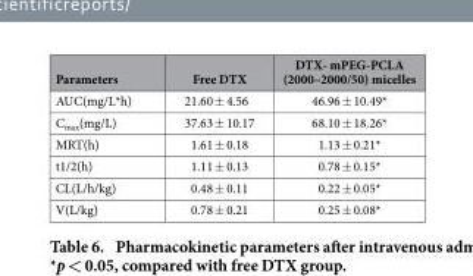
<table><thead><tr><td>Parameters</td><td>Free DTX</td><td>DTX- mPEG-PCLA (2000–2000/50) micelles</td></tr></thead><tbody><tr><td>AUC(mg/L*h)</td><td>21.60 ± 4.56</td><td>46.96 ± 10.49*</td></tr><tr><td>C<sub>max</sub>(mg/L)</td><td>37.63 ± 10.17</td><td>68.10 ± 18.26*</td></tr><tr><td>MRT(h)</td><td>1.61 ± 0.18</td><td>1.13 ± 0.21*</td></tr><tr><td>t1/2(h)</td><td>1.11 ± 0.13</td><td>0.78 ± 0.15*</td></tr><tr><td>CL(L/h/kg)</td><td>0.48 ± 0.11</td><td>0.22 ± 0.05*</td></tr><tr><td>V(L/kg)</td><td>0.78 ± 0.21</td><td>0.25 ± 0.08*</td></tr></tbody></table>